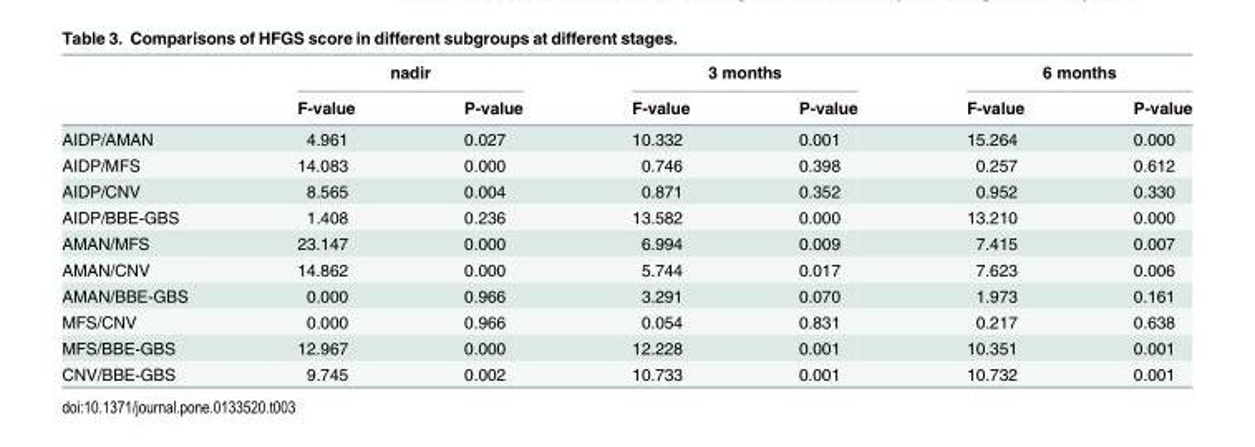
<table><thead><tr><td rowspan="2"></td><td colspan="2">nadir</td><td colspan="2">3 months</td><td colspan="2">6 months</td></tr><tr><td>F-value</td><td>P-value</td><td>F-value</td><td>P-value</td><td>F-value</td><td>P-value</td></tr></thead><tbody><tr><td>AIDP/AMAN</td><td>4.961</td><td>0.027</td><td>10.332</td><td>0.001</td><td>15.264</td><td>0.000</td></tr><tr><td>AIDP/MFS</td><td>14.083</td><td>0.000</td><td>0.746</td><td>0.398</td><td>0.257</td><td>0.612</td></tr><tr><td>AIDP/CNV</td><td>8.565</td><td>0.004</td><td>0.871</td><td>0.352</td><td>0.952</td><td>0.330</td></tr><tr><td>AIDP/BBE-GBS</td><td>1.408</td><td>0.236</td><td>13.582</td><td>0.000</td><td>13.210</td><td>0.000</td></tr><tr><td>AMAN/MFS</td><td>23.147</td><td>0.000</td><td>6.994</td><td>0.009</td><td>7.415</td><td>0.007</td></tr><tr><td>AMAN/CNV</td><td>14.862</td><td>0.000</td><td>5.744</td><td>0.017</td><td>7.623</td><td>0.006</td></tr><tr><td>AMAN/BBE-GBS</td><td>0.000</td><td>0.966</td><td>3.291</td><td>0.070</td><td>1.973</td><td>0.161</td></tr><tr><td>MFS/CNV</td><td>0.000</td><td>0.966</td><td>0.054</td><td>0.831</td><td>0.217</td><td>0.638</td></tr><tr><td>MFS/BBE-GBS</td><td>12.967</td><td>0.000</td><td>12.228</td><td>0.001</td><td>10.351</td><td>0.001</td></tr><tr><td>CNV/BBE-GBS</td><td>9.745</td><td>0.002</td><td>10.733</td><td>0.001</td><td>10.732</td><td>0.001</td></tr></tbody></table>